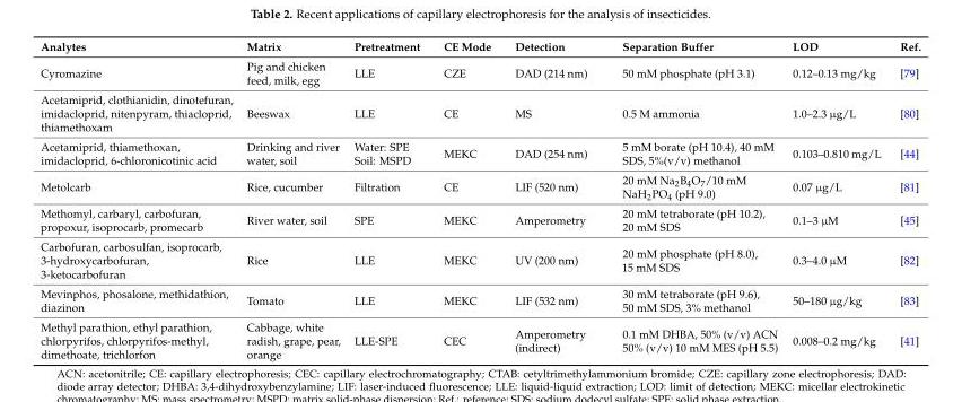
<table><thead><tr><td>Analytes</td><td>Matrix</td><td>Pretreatment</td><td>CE Mode</td><td>Detection</td><td>Separation Buffer</td><td>LOD</td><td>Ref.</td></tr></thead><tbody><tr><td>Cyromazine</td><td>Pig and chicken feed, milk, egg</td><td>LLE</td><td>CZE</td><td>DAD (214 nm)</td><td>50 mM phosphate (pH 3.1)</td><td>0.12–0.13 mg/kg</td><td>[79]</td></tr><tr><td>Acetamiprid, clothianidin, dinotefuran, imidacloprid, nitenpyram, thiacloprid, thiamethoxam</td><td>Beeswax</td><td>LLE</td><td>CE</td><td>MS</td><td>0.5 M ammonia</td><td>1.0–2.3 µg/L</td><td>[80]</td></tr><tr><td>Acetamiprid, thiamethoxan, imidacloprid, 6-chloronicotinic acid</td><td>Drinking and river water, soil</td><td>Water: SPE Soil: MSPD</td><td>MEKC</td><td>DAD (254 nm)</td><td>5 mM borate (pH 10.4), 40 mM SDS, 5%(v/v) methanol</td><td>0.103–0.810 mg/L</td><td>[44]</td></tr><tr><td>Metolcarb</td><td>Rice, cucumber</td><td>Filtration</td><td>CE</td><td>LIF (520 nm)</td><td>20 mM Na<sub>2</sub>B<sub>4</sub>O<sub>7</sub>/10 mM NaH<sub>2</sub>PO<sub>4</sub> (pH 9.0)</td><td>0.07 µg/L</td><td>[81]</td></tr><tr><td>Methomyl, carbaryl, carbofuran, propoxur, isoprocarb, promecarb</td><td>River water, soil</td><td>SPE</td><td>MEKC</td><td>Amperometry</td><td>20 mM tetraborate (pH 10.2), 20 mM SDS</td><td>0.1–3 µM</td><td>[45]</td></tr><tr><td>Carbofuran, carbosulfan, isoprocarb, 3-hydroxycarbofuran, 3-ketocarbofuran</td><td>Rice</td><td>LLE</td><td>MEKC</td><td>UV (200 nm)</td><td>20 mM phosphate (pH 8.0), 15 mM SDS</td><td>0.3–4.0 µM</td><td>[82]</td></tr><tr><td>Mevinphos, phosalone, methidathion, diazinon</td><td>Tomato</td><td>LLE</td><td>MEKC</td><td>LIF (532 nm)</td><td>30 mM tetraborate (pH 9.6), 50 mM SDS, 3% methanol</td><td>50–180 µg/kg</td><td>[83]</td></tr><tr><td>Methyl parathion, ethyl parathion, chlorpyrifos, chlorpyrifos-methyl, dimethoate, trichlorfon</td><td>Cabbage, white radish, grape, pear, orange</td><td>LLE-SPE</td><td>CEC</td><td>Amperometry (indirect)</td><td>0.1 mM DHBA, 50% (v/v) ACN 50% (v/v) 10 mM MES (pH 5.5)</td><td>0.008–0.2 mg/kg</td><td>[41]</td></tr></tbody></table>